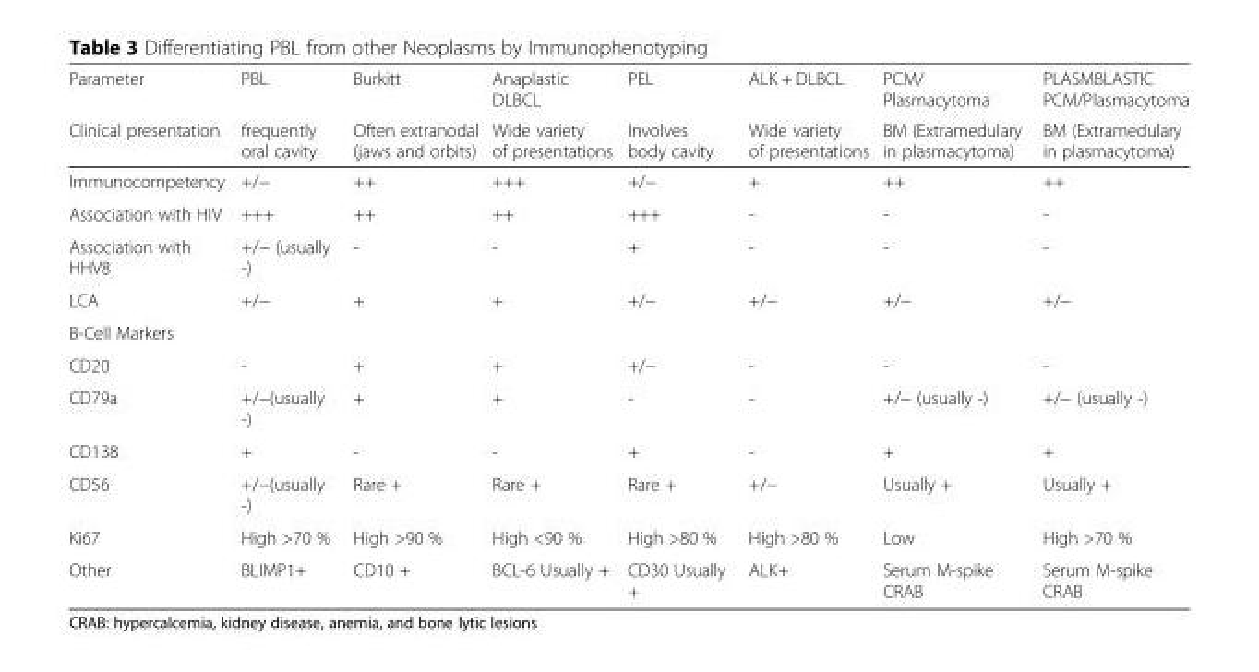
<table><thead><tr><td rowspan="2">Parameter Clinical presentation</td><td rowspan="2">PBL frequently oral cavity</td><td rowspan="2">Burkitt Often extranodal (jaws and orbits)</td><td rowspan="2">Anaplastic DLBCL Wide variety of presentations</td><td rowspan="2">PEL Involves body cavity</td><td rowspan="2">ALK + DLBCL Wide variety of presentations</td><td rowspan="2">PCM/ Plasmacytoma BM (Extramedulary in plasmacytoma)</td><td rowspan="2">PLASMBLASTIC PCM/Plasmacytoma BM (Extramedulary in plasmacytoma)</td></tr><tr></tr></thead><tbody><tr><td>Immunocompetency</td><td>+/−</td><td>++</td><td>+++</td><td>+/−</td><td>+</td><td>++</td><td>++</td></tr><tr><td>Association with HIV</td><td>+++</td><td>++</td><td>++</td><td>+++</td><td>-</td><td>-</td><td>-</td></tr><tr><td>Association with HHV8</td><td>+/− (usually -)</td><td>-</td><td>-</td><td>+</td><td>-</td><td>-</td><td>-</td></tr><tr><td>LCA</td><td>+/−</td><td>+</td><td>+</td><td>+/−</td><td>+/−</td><td>+/−</td><td>+/−</td></tr><tr><td colspan="8">B-Cell Markers</td></tr><tr><td>CD20</td><td>-</td><td>+</td><td>+</td><td>+/−</td><td>-</td><td>-</td><td>-</td></tr><tr><td>CD79a</td><td>+/−(usually -)</td><td>+</td><td>+</td><td>-</td><td>-</td><td>+/− (usually -)</td><td>+/− (usually -)</td></tr><tr><td>CD138</td><td>+</td><td>-</td><td>-</td><td>+</td><td>-</td><td>+</td><td>+</td></tr><tr><td>CD56</td><td>+/−(usually -)</td><td>Rare +</td><td>Rare +</td><td>Rare +</td><td>+/−</td><td>Usually +</td><td>Usually +</td></tr><tr><td>Ki67</td><td>High &gt;70 %</td><td>High &gt;90 %</td><td>High &lt;90 %</td><td>High &gt;80 %</td><td>High &gt;80 %</td><td>Low</td><td>High &gt;70 %</td></tr><tr><td>Other</td><td>BLIMP1+</td><td>CD10 +</td><td>BCL-6 Usually +</td><td>CD30 Usually +</td><td>ALK+</td><td>Serum M-spike CRAB</td><td>Serum M-spike CRAB</td></tr></tbody></table>